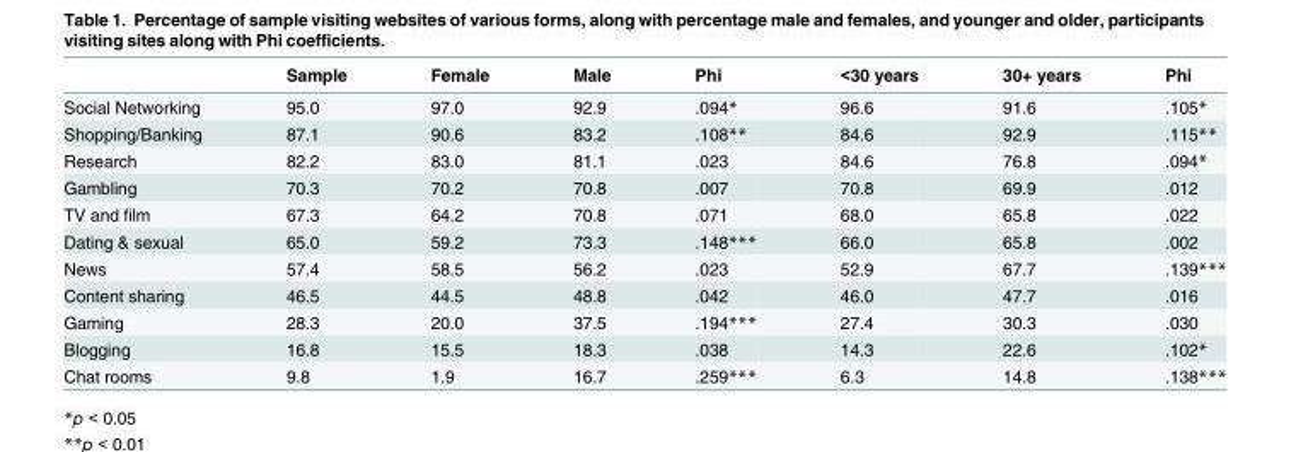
<table><thead><tr><td></td><td>Sample</td><td>Female</td><td>Male</td><td>Phi</td><td>&lt;30 years</td><td>30+ years</td><td>Phi</td></tr></thead><tbody><tr><td>Social Networking</td><td>95.0</td><td>97.0</td><td>92.9</td><td>.094*</td><td>96.6</td><td>91.6</td><td>.105*</td></tr><tr><td>Shopping/Banking</td><td>87.1</td><td>90.6</td><td>83.2</td><td>.108**</td><td>84.6</td><td>92.9</td><td>.115**</td></tr><tr><td>Research</td><td>82.2</td><td>83.0</td><td>81.1</td><td>.023</td><td>84.6</td><td>76.8</td><td>.094*</td></tr><tr><td>Gambling</td><td>70.3</td><td>70.2</td><td>70.8</td><td>.007</td><td>70.8</td><td>69.9</td><td>.012</td></tr><tr><td>TV and film</td><td>67.3</td><td>64.2</td><td>70.8</td><td>.071</td><td>68.0</td><td>65.8</td><td>.022</td></tr><tr><td>Dating &amp; sexual</td><td>65.0</td><td>59.2</td><td>73.3</td><td>.148***</td><td>66.0</td><td>65.8</td><td>.002</td></tr><tr><td>News</td><td>57.4</td><td>58.5</td><td>56.2</td><td>.023</td><td>52.9</td><td>67.7</td><td>.139***</td></tr><tr><td>Content sharing</td><td>46.5</td><td>44.5</td><td>48.8</td><td>.042</td><td>46.0</td><td>47.7</td><td>.016</td></tr><tr><td>Gaming</td><td>28.3</td><td>20.0</td><td>37.5</td><td>.194***</td><td>27.4</td><td>30.3</td><td>.030</td></tr><tr><td>Blogging</td><td>16.8</td><td>15.5</td><td>18.3</td><td>.038</td><td>14.3</td><td>22.6</td><td>.102*</td></tr><tr><td>Chat rooms</td><td>9.8</td><td>1.9</td><td>16.7</td><td>.259***</td><td>6.3</td><td>14.8</td><td>.138***</td></tr></tbody></table>